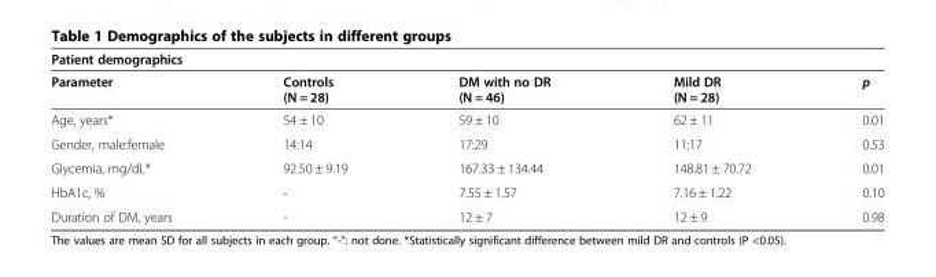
<table><thead><tr><td colspan="5">Patient demographics</td></tr><tr><td>Parameter</td><td>Controls (N = 28)</td><td>DM with no DR (N = 46)</td><td>Mild DR (N = 28)</td><td>p</td></tr></thead><tbody><tr><td>Age, years*</td><td>54 ± 10</td><td>59 ± 10</td><td>62 ± 11</td><td>0.01</td></tr><tr><td>Gender, male:female</td><td>14:14</td><td>17:29</td><td>11:17</td><td>0.53</td></tr><tr><td>Glycemia, mg/dL*</td><td>92.50 ± 9.19</td><td>167.33 ± 134.44</td><td>148.81 ± 70.72</td><td>0.01</td></tr><tr><td>HbA1c, %</td><td>-</td><td>7.55 ± 1.57</td><td>7.16 ± 1.22</td><td>0.10</td></tr><tr><td>Duration of DM, years</td><td>-</td><td>12 ± 7</td><td>12 ± 9</td><td>0.98</td></tr></tbody></table>